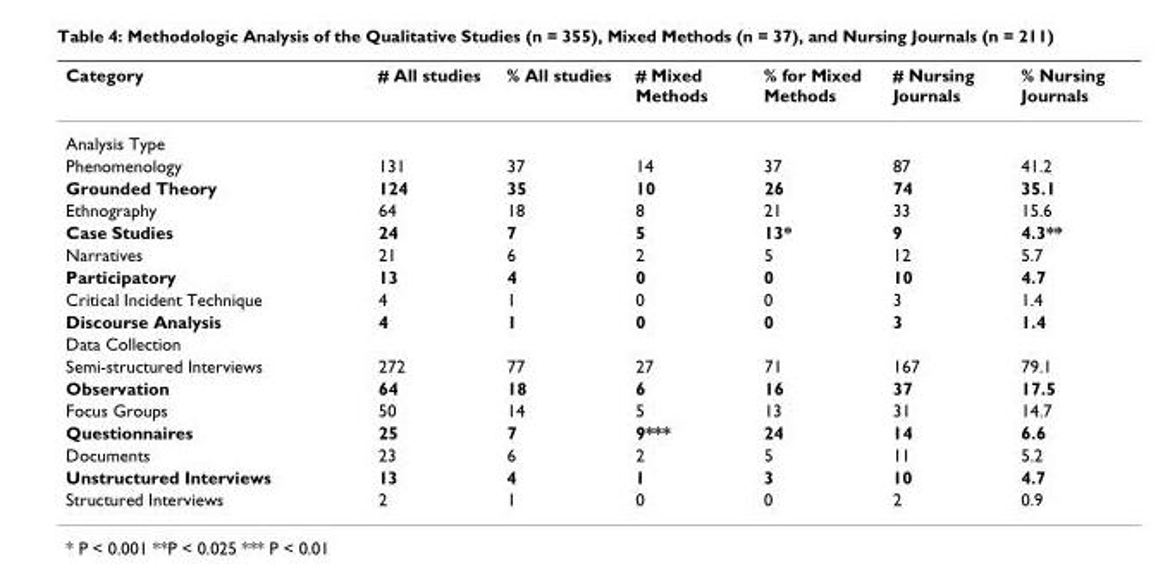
<table><thead><tr><td>Category</td><td># All studies</td><td>% All studies</td><td># Mixed Methods</td><td>% for Mixed Methods</td><td># Nursing Journals</td><td>% Nursing Journals</td></tr></thead><tbody><tr><td colspan="7">Analysis Type</td></tr><tr><td>Phenomenology</td><td>131</td><td>37</td><td>14</td><td>37</td><td>87</td><td>41.2</td></tr><tr><td>Grounded Theory</td><td>124</td><td>35</td><td>10</td><td>26</td><td>74</td><td>35.1</td></tr><tr><td>Ethnography</td><td>64</td><td>18</td><td>8</td><td>21</td><td>33</td><td>15.6</td></tr><tr><td>Case Studies</td><td>24</td><td>7</td><td>5</td><td>13*</td><td>9</td><td>4.3**</td></tr><tr><td>Narratives</td><td>21</td><td>6</td><td>2</td><td>5</td><td>12</td><td>5.7</td></tr><tr><td>Participatory</td><td>13</td><td>4</td><td>0</td><td>0</td><td>10</td><td>4.7</td></tr><tr><td>Critical Incident Technique</td><td>4</td><td>1</td><td>0</td><td>0</td><td>3</td><td>1.4</td></tr><tr><td>Discourse Analysis</td><td>4</td><td>1</td><td>0</td><td>0</td><td>3</td><td>1.4</td></tr><tr><td colspan="7">Data Collection</td></tr><tr><td>Semi-structured Interviews</td><td>272</td><td>77</td><td>27</td><td>71</td><td>167</td><td>79.1</td></tr><tr><td>Observation</td><td>64</td><td>18</td><td>6</td><td>16</td><td>37</td><td>17.5</td></tr><tr><td>Focus Groups</td><td>50</td><td>14</td><td>5</td><td>13</td><td>31</td><td>14.7</td></tr><tr><td>Questionnaires</td><td>25</td><td>7</td><td>9***</td><td>24</td><td>14</td><td>6.6</td></tr><tr><td>Documents</td><td>23</td><td>6</td><td>2</td><td>5</td><td>11</td><td>5.2</td></tr><tr><td>Unstructured Interviews</td><td>13</td><td>4</td><td>1</td><td>3</td><td>10</td><td>4.7</td></tr><tr><td>Structured Interviews</td><td>2</td><td>1</td><td>0</td><td>0</td><td>2</td><td>0.9</td></tr></tbody></table>